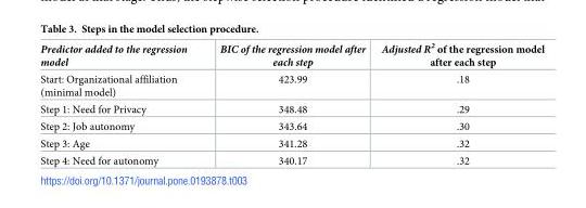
<table><thead><tr><td>Predictor added to the regression model</td><td>BIC of the regression model after each step</td><td>Adjusted R<sup>2</sup> of the regression model after each step</td></tr></thead><tbody><tr><td>Start: Organizational affiliation (minimal model)</td><td>423.99</td><td>.18</td></tr><tr><td>Step 1: Need for Privacy</td><td>348.48</td><td>.29</td></tr><tr><td>Step 2: Job autonomy</td><td>343.64</td><td>.30</td></tr><tr><td>Step 3: Age</td><td>341.28</td><td>.32</td></tr><tr><td>Step 4: Need for autonomy</td><td>340.17</td><td>.32</td></tr></tbody></table>